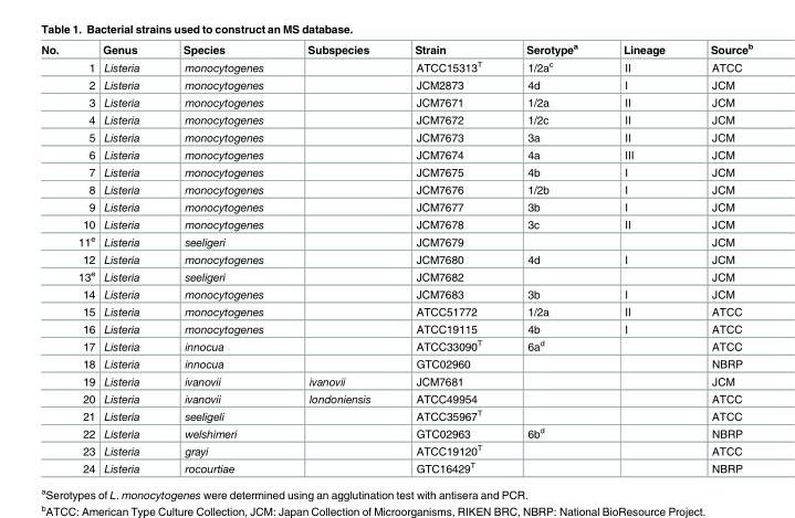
<table><thead><tr><td>No.</td><td>Genus</td><td>Species</td><td>Subspecies</td><td>Strain</td><td>Serotype<sup>a</sup></td><td>Lineage</td><td>Source<sup>b</sup></td></tr></thead><tbody><tr><td>1</td><td>Listeria</td><td>monocytogenes</td><td></td><td>ATCC15313<sup>T</sup></td><td>1/2a<sup>c</sup></td><td>II</td><td>ATCC</td></tr><tr><td>2</td><td>Listeria</td><td>monocytogenes</td><td></td><td>JCM2873</td><td>4d</td><td>I</td><td>JCM</td></tr><tr><td>3</td><td>Listeria</td><td>monocytogenes</td><td></td><td>JCM7671</td><td>1/2a</td><td>II</td><td>JCM</td></tr><tr><td>4</td><td>Listeria</td><td>monocytogenes</td><td></td><td>JCM7672</td><td>1/2c</td><td>II</td><td>JCM</td></tr><tr><td>5</td><td>Listeria</td><td>monocytogenes</td><td></td><td>JCM7673</td><td>3a</td><td>II</td><td>JCM</td></tr><tr><td>6</td><td>Listeria</td><td>monocytogenes</td><td></td><td>JCM7674</td><td>4a</td><td>III</td><td>JCM</td></tr><tr><td>7</td><td>Listeria</td><td>monocytogenes</td><td></td><td>JCM7675</td><td>4b</td><td>I</td><td>JCM</td></tr><tr><td>8</td><td>Listeria</td><td>monocytogenes</td><td></td><td>JCM7676</td><td>1/2b</td><td>I</td><td>JCM</td></tr><tr><td>9</td><td>Listeria</td><td>monocytogenes</td><td></td><td>JCM7677</td><td>3b</td><td>I</td><td>JCM</td></tr><tr><td>10</td><td>Listeria</td><td>monocytogenes</td><td></td><td>JCM7678</td><td>3c</td><td>II</td><td>JCM</td></tr><tr><td>11<sup>e</sup></td><td>Listeria</td><td>seeligeri</td><td></td><td>JCM7679</td><td></td><td></td><td>JCM</td></tr><tr><td>12</td><td>Listeria</td><td>monocytogenes</td><td></td><td>JCM7680</td><td>4d</td><td>I</td><td>JCM</td></tr><tr><td>13<sup>e</sup></td><td>Listeria</td><td>seeligeri</td><td></td><td>JCM7682</td><td></td><td></td><td>JCM</td></tr><tr><td>14</td><td>Listeria</td><td>monocytogenes</td><td></td><td>JCM7683</td><td>3b</td><td>I</td><td>JCM</td></tr><tr><td>15</td><td>Listeria</td><td>monocytogenes</td><td></td><td>ATCC51772</td><td>1/2a</td><td>II</td><td>ATCC</td></tr><tr><td>16</td><td>Listeria</td><td>monocytogenes</td><td></td><td>ATCC19115</td><td>4b</td><td>I</td><td>ATCC</td></tr><tr><td>17</td><td>Listeria</td><td>innocua</td><td></td><td>ATCC33090<sup>T</sup></td><td>6a<sup>d</sup></td><td></td><td>ATCC</td></tr><tr><td>18</td><td>Listeria</td><td>innocua</td><td></td><td>GTC02960</td><td></td><td></td><td>NBRP</td></tr><tr><td>19</td><td>Listeria</td><td>ivanovii</td><td>ivanovii</td><td>JCM7681</td><td></td><td></td><td>JCM</td></tr><tr><td>20</td><td>Listeria</td><td>ivanovii</td><td>londoniensis</td><td>ATCC49954</td><td></td><td></td><td>ATCC</td></tr><tr><td>21</td><td>Listeria</td><td>seeligeli</td><td></td><td>ATCC35967<sup>T</sup></td><td></td><td></td><td>ATCC</td></tr><tr><td>22</td><td>Listeria</td><td>welshimeri</td><td></td><td>GTC02963</td><td>6b<sup>d</sup></td><td></td><td>NBRP</td></tr><tr><td>23</td><td>Listeria</td><td>grayi</td><td></td><td>ATCC19120<sup>T</sup></td><td></td><td></td><td>ATCC</td></tr><tr><td>24</td><td>Listeria</td><td>rocourtiae</td><td></td><td>GTC16429<sup>T</sup></td><td></td><td></td><td>NBRP</td></tr></tbody></table>